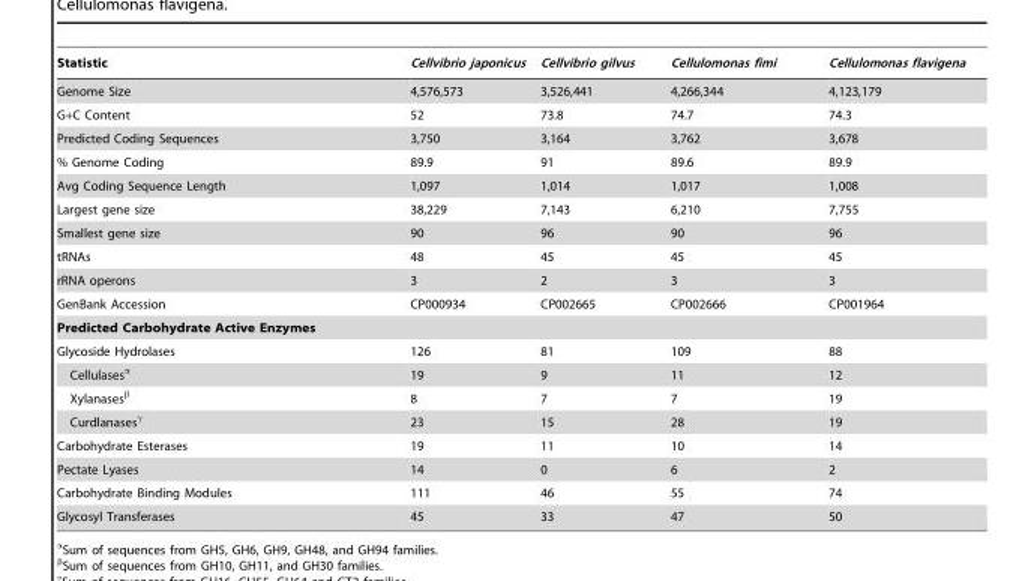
<table><thead><tr><td>Statistic</td><td>Cellvibrio japonicus</td><td>Cellvibrio gilvus</td><td>Cellulomonas fimi</td><td>Cellulomonas flavigena</td></tr></thead><tbody><tr><td>Genome Size</td><td>4,576,573</td><td>3,526,441</td><td>4,266,344</td><td>4,123,179</td></tr><tr><td>G+C Content</td><td>52</td><td>73.8</td><td>74.7</td><td>74.3</td></tr><tr><td>Predicted Coding Sequences</td><td>3,750</td><td>3,164</td><td>3,762</td><td>3,678</td></tr><tr><td>% Genome Coding</td><td>89.9</td><td>91</td><td>89.6</td><td>89.9</td></tr><tr><td>Avg Coding Sequence Length</td><td>1,097</td><td>1,014</td><td>1,017</td><td>1,008</td></tr><tr><td>Largest gene size</td><td>38,229</td><td>7,143</td><td>6,210</td><td>7,755</td></tr><tr><td>Smallest gene size</td><td>90</td><td>96</td><td>90</td><td>96</td></tr><tr><td>tRNAs</td><td>48</td><td>45</td><td>45</td><td>45</td></tr><tr><td>rRNA operons</td><td>3</td><td>2</td><td>3</td><td>3</td></tr><tr><td>GenBank Accession</td><td>CP000934</td><td>CP002665</td><td>CP002666</td><td>CP001964</td></tr><tr><td colspan="5">Predicted Carbohydrate Active Enzymes</td></tr><tr><td>Glycoside Hydrolases</td><td>126</td><td>81</td><td>109</td><td>88</td></tr><tr><td>Cellulasesα</td><td>19</td><td>9</td><td>11</td><td>12</td></tr><tr><td>Xylanasesβ</td><td>8</td><td>7</td><td>7</td><td>19</td></tr><tr><td>Curdlanasesγ</td><td>23</td><td>15</td><td>28</td><td>19</td></tr><tr><td>Carbohydrate Esterases</td><td>19</td><td>11</td><td>10</td><td>14</td></tr><tr><td>Pectate Lyases</td><td>14</td><td>0</td><td>6</td><td>2</td></tr><tr><td>Carbohydrate Binding Modules</td><td>111</td><td>46</td><td>55</td><td>74</td></tr><tr><td>Glycosyl Transferases</td><td>45</td><td>33</td><td>47</td><td>50</td></tr></tbody></table>